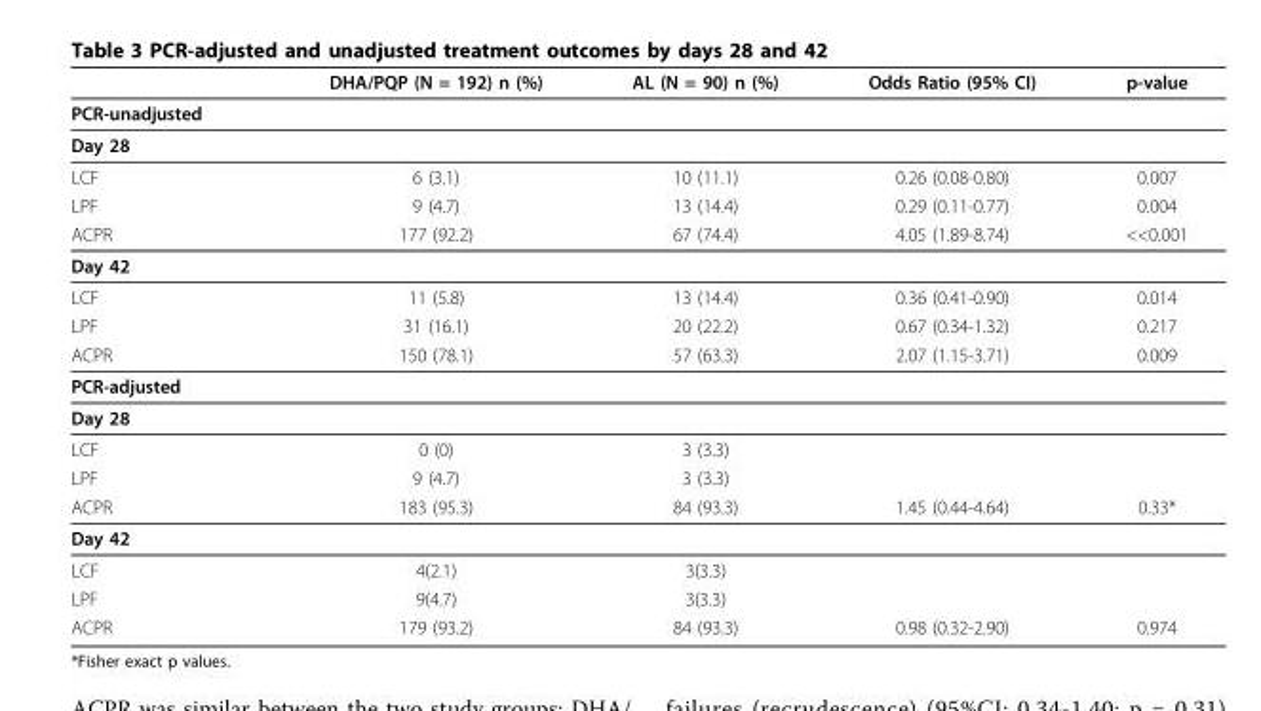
<table><thead><tr><td></td><td>DHA/PQP (N = 192) n (%)</td><td>AL (N = 90) n (%)</td><td>Odds Ratio (95% CI)</td><td>p-value</td></tr></thead><tbody><tr><td colspan="5">PCR-unadjusted</td></tr><tr><td colspan="5">Day 28</td></tr><tr><td>LCF</td><td>6 (3.1)</td><td>10 (11.1)</td><td>0.26 (0.08-0.80)</td><td>0.007</td></tr><tr><td>LPF</td><td>9 (4.7)</td><td>13 (14.4)</td><td>0.29 (0.11-0.77)</td><td>0.004</td></tr><tr><td>ACPR</td><td>177 (92.2)</td><td>67 (74.4)</td><td>4.05 (1.89-8.74)</td><td>&lt;&lt;0.001</td></tr><tr><td colspan="5">Day 42</td></tr><tr><td>LCF</td><td>11 (5.8)</td><td>13 (14.4)</td><td>0.36 (0.41-0.90)</td><td>0.014</td></tr><tr><td>LPF</td><td>31 (16.1)</td><td>20 (22.2)</td><td>0.67 (0.34-1.32)</td><td>0.217</td></tr><tr><td>ACPR</td><td>150 (78.1)</td><td>57 (63.3)</td><td>2.07 (1.15-3.71)</td><td>0.009</td></tr><tr><td colspan="5">PCR-adjusted</td></tr><tr><td colspan="5">Day 28</td></tr><tr><td>LCF</td><td>0 (0)</td><td>3 (3.3)</td><td></td><td></td></tr><tr><td>LPF</td><td>9 (4.7)</td><td>3 (3.3)</td><td></td><td></td></tr><tr><td>ACPR</td><td>183 (95.3)</td><td>84 (93.3)</td><td>1.45 (0.44-4.64)</td><td>0.33*</td></tr><tr><td colspan="5">Day 42</td></tr><tr><td>LCF</td><td>4(2.1)</td><td>3(3.3)</td><td></td><td></td></tr><tr><td>LPF</td><td>9(4.7)</td><td>3(3.3)</td><td></td><td></td></tr><tr><td>ACPR</td><td>179 (93.2)</td><td>84 (93.3)</td><td>0.98 (0.32-2.90)</td><td>0.974</td></tr></tbody></table>